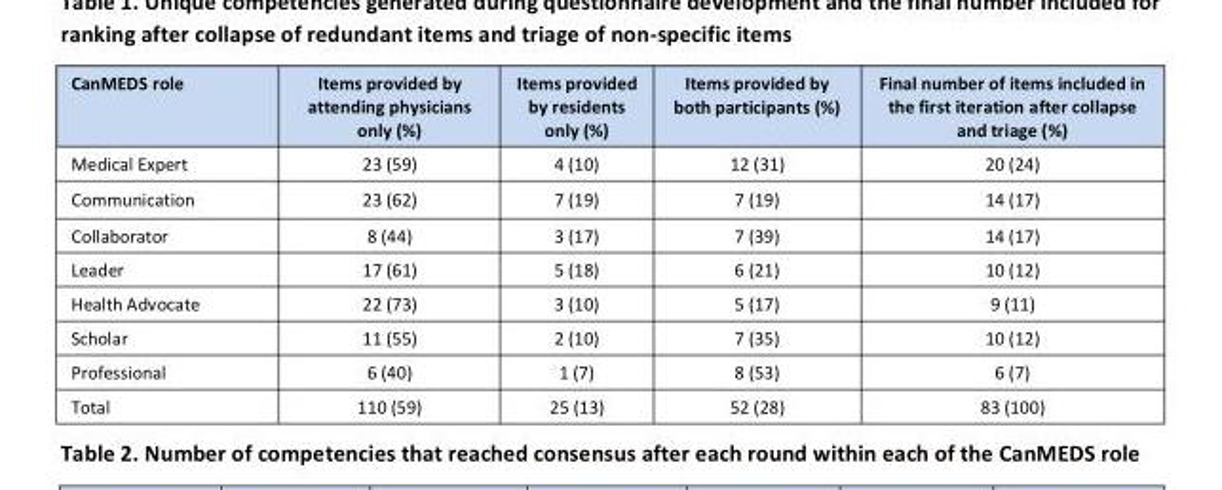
<table><thead><tr><td>CanMEDS role</td><td>Items provided by attending physicians only (%)</td><td>Items provided by residents only (%)</td><td>Items provided by both participants (%)</td><td>Final number of items included in the first iteration after collapse and triage (%)</td></tr></thead><tbody><tr><td>Medical Expert</td><td>23 (59)</td><td>4 (10)</td><td>12 (31)</td><td>20 (24)</td></tr><tr><td>Communication</td><td>23 (62)</td><td>7 (19)</td><td>7 (19)</td><td>14 (17)</td></tr><tr><td>Collaborator</td><td>8 (44)</td><td>3 (17)</td><td>7 (39)</td><td>14 (17)</td></tr><tr><td>Leader</td><td>17 (61)</td><td>5 (18)</td><td>6 (21)</td><td>10 (12)</td></tr><tr><td>Health Advocate</td><td>22 (73)</td><td>3 (10)</td><td>5 (17)</td><td>9 (11)</td></tr><tr><td>Scholar</td><td>11 (55)</td><td>2 (10)</td><td>7 (35)</td><td>10 (12)</td></tr><tr><td>Professional</td><td>6 (40)</td><td>1 (7)</td><td>8 (53)</td><td>6 (7)</td></tr><tr><td>Total</td><td>110 (59)</td><td>25 (13)</td><td>52 (28)</td><td>83 (100)</td></tr></tbody></table>